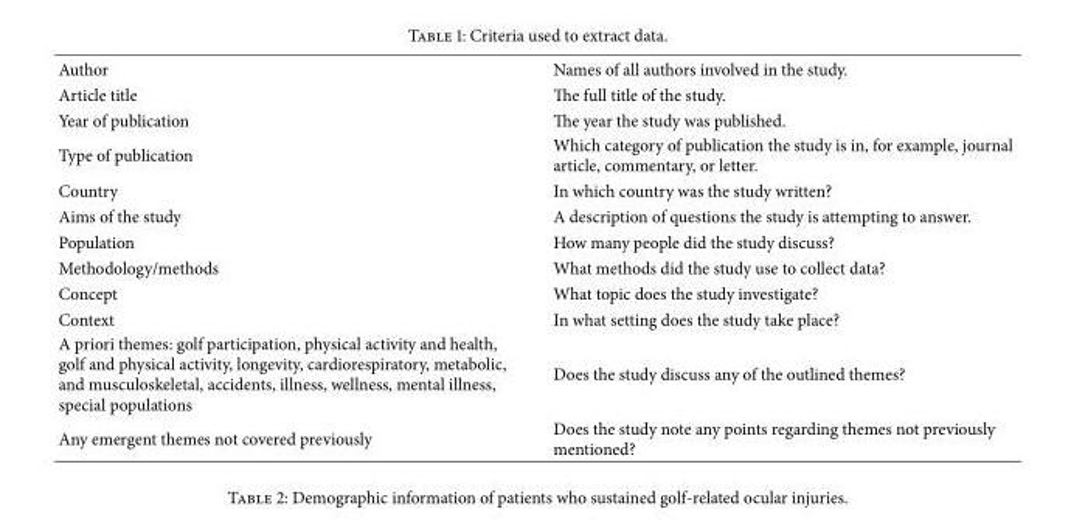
<table><tbody><tr><td>Author</td><td>Names of all authors involved in the study.</td></tr><tr><td>Article title</td><td>The full title of the study.</td></tr><tr><td>Year of publication</td><td>The year the study was published.</td></tr><tr><td>Type of publication</td><td>Which category of publication the study is in, for example, journal article, commentary, or letter.</td></tr><tr><td>Country</td><td>In which country was the study written?</td></tr><tr><td>Aims of the study</td><td>A description of questions the study is attempting to answer.</td></tr><tr><td>Population</td><td>How many people did the study discuss?</td></tr><tr><td>Methodology/methods</td><td>What methods did the study use to collect data?</td></tr><tr><td>Concept</td><td>What topic does the study investigate?</td></tr><tr><td>Context</td><td>In what setting does the study take place?</td></tr><tr><td>A priori themes: golf participation, physical activity and health, golf and physical activity, longevity, cardiorespiratory, metabolic, and musculoskeletal, accidents, illness, wellness, mental illness, special populations</td><td>Does the study discuss any of the outlined themes?</td></tr><tr><td>Any emergent themes not covered previously</td><td>Does the study note any points regarding themes not previously mentioned?</td></tr></tbody></table>